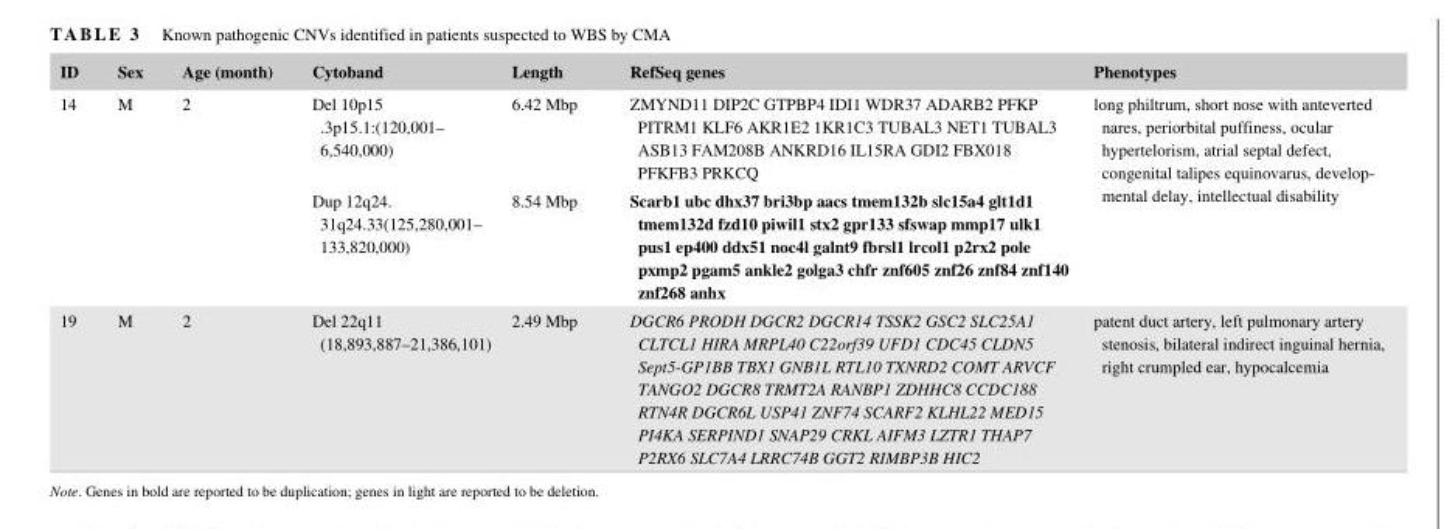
<table><thead><tr><td>ID</td><td>Sex</td><td>Age (month)</td><td>Cytoband</td><td>Length</td><td>RefSeq genes</td><td>Phenotypes</td></tr></thead><tbody><tr><td rowspan="2">14</td><td rowspan="2">M</td><td rowspan="2">2</td><td>Del 10p15 .3p15.1:(120,001– 6,540,000)</td><td>6.42 Mbp</td><td>ZMYND11 DIP2C GTPBP4 IDI1 WDR37 ADARB2 PFKP PITRM1 KLF6 AKR1E2 1KR1C3 TUBAL3 NET1 TUBAL3 ASB13 FAM208B ANKRD16 IL15RA GDI2 FBX018 PFKFB3 PRKCQ</td><td rowspan="2">long philtrum, short nose with anteverted nares, periorbital puffiness, ocular hypertelorism, atrial septal defect, congenital talipes equinovarus, develop- mental delay, intellectual disability</td></tr><tr><td>Dup 12q24. 31q24.33(125,280,001– 133,820,000)</td><td>8.54 Mbp</td><td>Scarb1 ubc dhx37 bri3bp aacs tmem132b slc15a4 glt1d1 tmem132d fzd10 piwil1 stx2 gpr133 sfswap mmp17 ulk1 pus1 ep400 ddx51 noc4l galnt9 fbrsl1 lrcol1 p2rx2 pole pxmp2 pgam5 ankle2 golga3 chfr znf605 znf26 znf84 znf140 znf268 anhx</td></tr><tr><td>19</td><td>M</td><td>2</td><td>Del 22q11 (18,893,887–21,386,101)</td><td>2.49 Mbp</td><td>DGCR6 PRODH DGCR2 DGCR14 TSSK2 GSC2 SLC25A1 CLTCL1 HIRA MRPL40 C22orf39 UFD1 CDC45 CLDN5 Sept5‐GP1BB TBX1 GNB1L RTL10 TXNRD2 COMT ARVCF TANGO2 DGCR8 TRMT2A RANBP1 ZDHHC8 CCDC188 RTN4R DGCR6L USP41 ZNF74 SCARF2 KLHL22 MED15 PI4KA SERPIND1 SNAP29 CRKL AIFM3 LZTR1 THAP7 P2RX6 SLC7A4 LRRC74B GGT2 RIMBP3B HIC2</td><td>patent duct artery, left pulmonary artery stenosis, bilateral indirect inguinal hernia, right crumpled ear, hypocalcemia</td></tr></tbody></table>